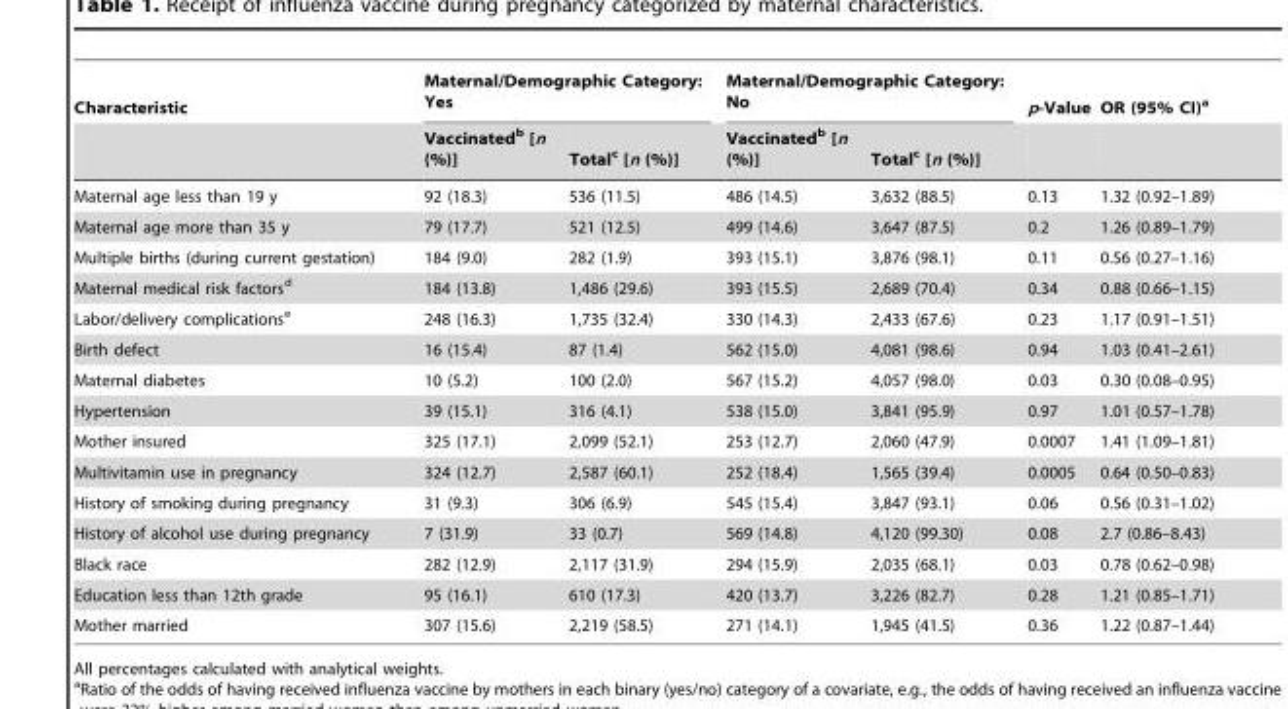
<table><thead><tr><td rowspan="2">Characteristic</td><td colspan="2">Maternal/Demographic Category: Yes</td><td colspan="2">Maternal/Demographic Category: No</td><td rowspan="2">p-Value</td><td rowspan="2">OR (95% CI)<sup>a</sup></td></tr><tr><td>Vaccinated<sup>b</sup> [n (%)]</td><td>Total<sup>c</sup> [n (%)]</td><td>Vaccinated<sup>b</sup> [n (%)]</td><td>Total<sup>c</sup> [n (%)]</td></tr></thead><tbody><tr><td>Maternal age less than 19 y</td><td>92 (18.3)</td><td>536 (11.5)</td><td>486 (14.5)</td><td>3,632 (88.5)</td><td>0.13</td><td>1.32 (0.92–1.89)</td></tr><tr><td>Maternal age more than 35 y</td><td>79 (17.7)</td><td>521 (12.5)</td><td>499 (14.6)</td><td>3,647 (87.5)</td><td>0.2</td><td>1.26 (0.89–1.79)</td></tr><tr><td>Multiple births (during current gestation)</td><td>184 (9.0)</td><td>282 (1.9)</td><td>393 (15.1)</td><td>3,876 (98.1)</td><td>0.11</td><td>0.56 (0.27–1.16)</td></tr><tr><td>Maternal medical risk factors<sup>d</sup></td><td>184 (13.8)</td><td>1,486 (29.6)</td><td>393 (15.5)</td><td>2,689 (70.4)</td><td>0.34</td><td>0.88 (0.66–1.15)</td></tr><tr><td>Labor/delivery complications<sup>e</sup></td><td>248 (16.3)</td><td>1,735 (32.4)</td><td>330 (14.3)</td><td>2,433 (67.6)</td><td>0.23</td><td>1.17 (0.91–1.51)</td></tr><tr><td>Birth defect</td><td>16 (15.4)</td><td>87 (1.4)</td><td>562 (15.0)</td><td>4,081 (98.6)</td><td>0.94</td><td>1.03 (0.41–2.61)</td></tr><tr><td>Maternal diabetes</td><td>10 (5.2)</td><td>100 (2.0)</td><td>567 (15.2)</td><td>4,057 (98.0)</td><td>0.03</td><td>0.30 (0.08–0.95)</td></tr><tr><td>Hypertension</td><td>39 (15.1)</td><td>316 (4.1)</td><td>538 (15.0)</td><td>3,841 (95.9)</td><td>0.97</td><td>1.01 (0.57–1.78)</td></tr><tr><td>Mother insured</td><td>325 (17.1)</td><td>2,099 (52.1)</td><td>253 (12.7)</td><td>2,060 (47.9)</td><td>0.0007</td><td>1.41 (1.09–1.81)</td></tr><tr><td>Multivitamin use in pregnancy</td><td>324 (12.7)</td><td>2,587 (60.1)</td><td>252 (18.4)</td><td>1,565 (39.4)</td><td>0.0005</td><td>0.64 (0.50–0.83)</td></tr><tr><td>History of smoking during pregnancy</td><td>31 (9.3)</td><td>306 (6.9)</td><td>545 (15.4)</td><td>3,847 (93.1)</td><td>0.06</td><td>0.56 (0.31–1.02)</td></tr><tr><td>History of alcohol use during pregnancy</td><td>7 (31.9)</td><td>33 (0.7)</td><td>569 (14.8)</td><td>4,120 (99.30)</td><td>0.08</td><td>2.7 (0.86–8.43)</td></tr><tr><td>Black race</td><td>282 (12.9)</td><td>2,117 (31.9)</td><td>294 (15.9)</td><td>2,035 (68.1)</td><td>0.03</td><td>0.78 (0.62–0.98)</td></tr><tr><td>Education less than 12th grade</td><td>95 (16.1)</td><td>610 (17.3)</td><td>420 (13.7)</td><td>3,226 (82.7)</td><td>0.28</td><td>1.21 (0.85–1.71)</td></tr><tr><td>Mother married</td><td>307 (15.6)</td><td>2,219 (58.5)</td><td>271 (14.1)</td><td>1,945 (41.5)</td><td>0.36</td><td>1.22 (0.87–1.44)</td></tr></tbody></table>